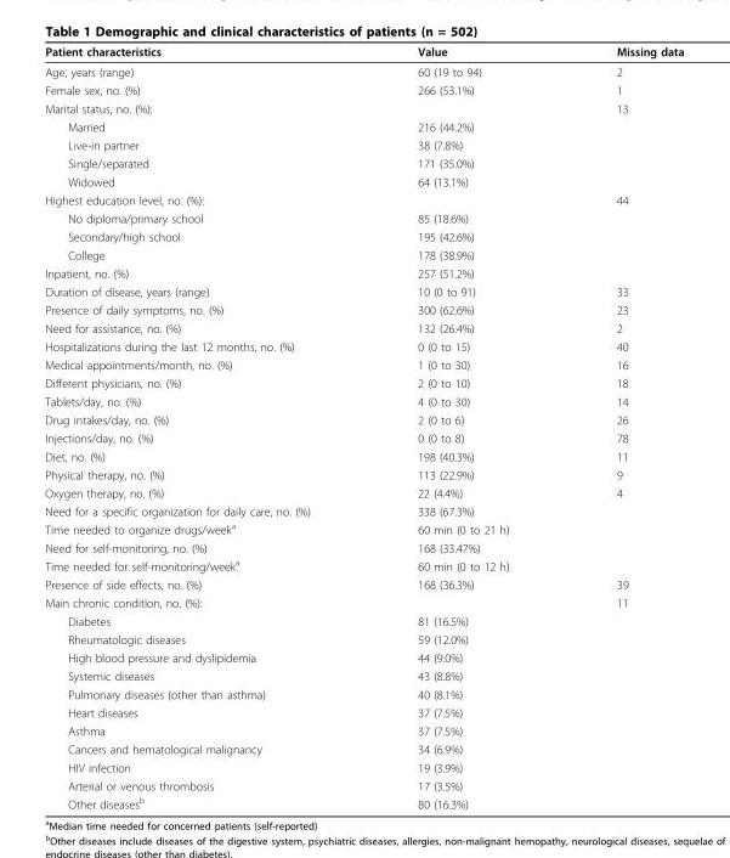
<table><thead><tr><td>Patient characteristics</td><td>Value</td><td>Missing data</td></tr></thead><tbody><tr><td>Age, years (range)</td><td>60 (19 to 94)</td><td>2</td></tr><tr><td>Female sex, no. (%)</td><td>266 (53.1%)</td><td>1</td></tr><tr><td>Marital status, no. (%):</td><td></td><td>13</td></tr><tr><td>Married</td><td>216 (44.2%)</td><td></td></tr><tr><td>Live-in partner</td><td>38 (7.8%)</td><td></td></tr><tr><td>Single/separated</td><td>171 (35.0%)</td><td></td></tr><tr><td>Widowed</td><td>64 (13.1%)</td><td></td></tr><tr><td>Highest education level, no. (%):</td><td></td><td>44</td></tr><tr><td>No diploma/primary school</td><td>85 (18.6%)</td><td></td></tr><tr><td>Secondary/high school</td><td>195 (42.6%)</td><td></td></tr><tr><td>College</td><td>178 (38.9%)</td><td></td></tr><tr><td>Inpatient, no. (%)</td><td>257 (51.2%)</td><td></td></tr><tr><td>Duration of disease, years (range)</td><td>10 (0 to 91)</td><td>33</td></tr><tr><td>Presence of daily symptoms, no. (%)</td><td>300 (62.6%)</td><td>23</td></tr><tr><td>Need for assistance, no. (%)</td><td>132 (26.4%)</td><td>2</td></tr><tr><td>Hospitalizations during the last 12 months, no. (%)</td><td>0 (0 to 15)</td><td>40</td></tr><tr><td>Medical appointments/month, no. (%)</td><td>1 (0 to 30)</td><td>16</td></tr><tr><td>Different physicians, no. (%)</td><td>2 (0 to 10)</td><td>18</td></tr><tr><td>Tablets/day, no. (%)</td><td>4 (0 to 30)</td><td>14</td></tr><tr><td>Drug intakes/day, no. (%)</td><td>2 (0 to 6)</td><td>26</td></tr><tr><td>Injections/day, no. (%)</td><td>0 (0 to 8)</td><td>78</td></tr><tr><td>Diet, no. (%)</td><td>198 (40.3%)</td><td>11</td></tr><tr><td>Physical therapy, no. (%)</td><td>113 (22.9%)</td><td>9</td></tr><tr><td>Oxygen therapy, no. (%)</td><td>22 (4.4%)</td><td>4</td></tr><tr><td>Need for a specific organization for daily care, no. (%)</td><td>338 (67.3%)</td><td></td></tr><tr><td>Time needed to organize drugs/week<sup>a</sup></td><td>60 min (0 to 21 h)</td><td></td></tr><tr><td>Need for self-monitoring, no. (%)</td><td>168 (33.47%)</td><td></td></tr><tr><td>Time needed for self-monitoring/week<sup>a</sup></td><td>60 min (0 to 12 h)</td><td></td></tr><tr><td>Presence of side effects, no. (%)</td><td>168 (36.3%)</td><td>39</td></tr><tr><td>Main chronic condition, no. (%):</td><td></td><td>11</td></tr><tr><td>Diabetes</td><td>81 (16.5%)</td><td></td></tr><tr><td>Rheumatologic diseases</td><td>59 (12.0%)</td><td></td></tr><tr><td>High blood pressure and dyslipidemia</td><td>44 (9.0%)</td><td></td></tr><tr><td>Systemic diseases</td><td>43 (8.8%)</td><td></td></tr><tr><td>Pulmonary diseases (other than asthma)</td><td>40 (8.1%)</td><td></td></tr><tr><td>Heart diseases</td><td>37 (7.5%)</td><td></td></tr><tr><td>Asthma</td><td>37 (7.5%)</td><td></td></tr><tr><td>Cancers and hematological malignancy</td><td>34 (6.9%)</td><td></td></tr><tr><td>HIV infection</td><td>19 (3.9%)</td><td></td></tr><tr><td>Arterial or venous thrombosis</td><td>17 (3.5%)</td><td></td></tr><tr><td>Other diseases<sup>b</sup></td><td>80 (16.3%)</td><td></td></tr></tbody></table>